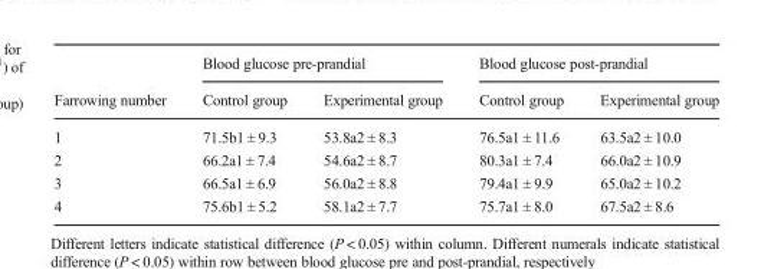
<table><thead><tr><td rowspan="2">Farrowing number</td><td colspan="2">Blood glucose pre-prandial</td><td colspan="2">Blood glucose post-prandial</td></tr><tr><td>Control group</td><td>Experimental group</td><td>Control group</td><td>Experimental group</td></tr></thead><tbody><tr><td>1</td><td>71.5b1 ± 9.3</td><td>53.8a2 ± 8.3</td><td>76.5a1 ± 11.6</td><td>63.5a2 ± 10.0</td></tr><tr><td>2</td><td>66.2a1 ± 7.4</td><td>54.6a2 ± 8.7</td><td>80.3a1 ± 7.4</td><td>66.0a2 ± 10.9</td></tr><tr><td>3</td><td>66.5a1 ± 6.9</td><td>56.0a2 ± 8.8</td><td>79.4a1 ± 9.9</td><td>65.0a2 ± 10.2</td></tr><tr><td>4</td><td>75.6b1 ± 5.2</td><td>58.1a2 ± 7.7</td><td>75.7a1 ± 8.0</td><td>67.5a2 ± 8.6</td></tr></tbody></table>